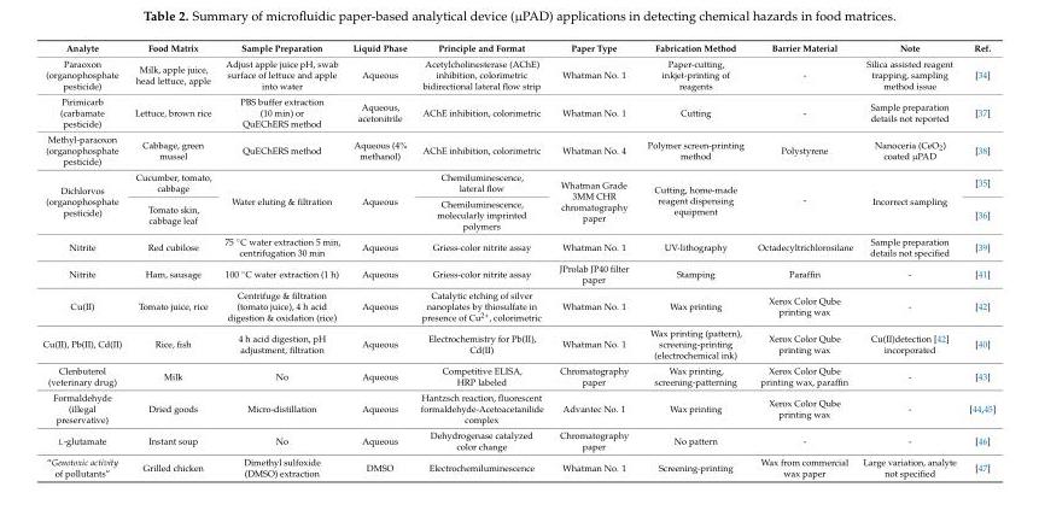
<table><thead><tr><td>Analyte</td><td>Food Matrix</td><td>Sample Preparation</td><td>Liquid Phase</td><td>Principle and Format</td><td>Paper Type</td><td>Fabrication Method</td><td>Barrier Material</td><td>Note</td><td>Ref.</td></tr></thead><tbody><tr><td>Paraoxon (organophosphate pesticide)</td><td>Milk, apple juice, head lettuce, apple</td><td>Adjust apple juice pH, swab surface of lettuce and apple into water</td><td>Aqueous</td><td>Acetylcholinesterase (AChE) inhibition, colorimetric bidirectional lateral flow strip</td><td>Whatman No. 1</td><td>Paper-cutting, inkjet-printing of reagents</td><td>-</td><td>Silica assisted reagent trapping, sampling method issue</td><td>[34]</td></tr><tr><td>Pirimicarb (carbamate pesticide)</td><td>Lettuce, brown rice</td><td>PBS buffer extraction (10 min) or QuEChERS method</td><td>Aqueous, acetonitrile</td><td>AChE inhibition, colorimetric</td><td>Whatman No. 1</td><td>Cutting</td><td>-</td><td>Sample preparation details not reported</td><td>[37]</td></tr><tr><td>Methyl-paraoxon (organophosphate pesticide)</td><td>Cabbage, green mussel</td><td>QuEChERS method</td><td>Aqueous (4% methanol)</td><td>AChE inhibition, colorimetric</td><td>Whatman No. 4</td><td>Polymer screen-printing method</td><td>Polystyrene</td><td>Nanoceria (CeO<sub>2</sub>) coated µPAD</td><td>[38]</td></tr><tr><td rowspan="2">Dichlorvos (organophosphate pesticide)</td><td>Cucumber, tomato, cabbage</td><td rowspan="2">Water eluting &amp; filtration</td><td rowspan="2">Aqueous</td><td>Chemiluminescence, lateral flow</td><td rowspan="2">Whatman Grade 3MM CHR chromatography paper</td><td rowspan="2">Cutting, home-made reagent dispensing equipment</td><td rowspan="2">-</td><td rowspan="2">Incorrect sampling</td><td>[35]</td></tr><tr><td>Tomato skin, cabbage leaf</td><td>Chemiluminescence, molecularly imprinted polymers</td><td>[36]</td></tr><tr><td>Nitrite</td><td>Red cubilose</td><td>75 ◦C water extraction 5 min, centrifugation 30 min</td><td>Aqueous</td><td>Griess-color nitrite assay</td><td>Whatman No. 1</td><td>UV-lithography</td><td>Octadecyltrichlorosilane</td><td>Sample preparation details not specified</td><td>[39]</td></tr><tr><td>Nitrite</td><td>Ham, sausage</td><td>100 ◦C water extraction (1 h)</td><td>Aqueous</td><td>Griess-color nitrite assay</td><td>JProlab JP40 filter paper</td><td>Stamping</td><td>Paraffin</td><td>-</td><td>[41]</td></tr><tr><td>Cu(II)</td><td>Tomato juice, rice</td><td>Centrifuge &amp; filtration (tomato juice), 4 h acid digestion &amp; oxidation (rice)</td><td>Aqueous</td><td>Catalytic etching of silver nanoplates by thiosulfate in presence of Cu<sup>2+</sup>, colorimetric</td><td>Whatman No. 1</td><td>Wax printing</td><td>Xerox Color Qube printing wax</td><td>-</td><td>[42]</td></tr><tr><td>Cu(II), Pb(II), Cd(II)</td><td>Rice, fish</td><td>4 h acid digestion, pH adjustment, filtration</td><td>Aqueous</td><td>Electrochemistry for Pb(II), Cd(II)</td><td>Whatman No. 1</td><td>Wax printing (pattern), screening-printing (electrochemical ink)</td><td>Xerox Color Qube printing wax</td><td>Cu(II)detection [42] incorporated</td><td>[40]</td></tr><tr><td>Clenbuterol (veterinary drug)</td><td>Milk</td><td>No</td><td>Aqueous</td><td>Competitive ELISA, HRP labeled</td><td>Chromatography paper</td><td>Wax printing, screening-patterning</td><td>Xerox Color Qube printing wax, paraffin</td><td>-</td><td>[43]</td></tr><tr><td>Formaldehyde (illegal preservative)</td><td>Dried goods</td><td>Micro-distillation</td><td>Aqueous</td><td>Hantzsch reaction, fluorescent formaldehyde-Acetoacetanilide complex</td><td>Advantec No. 1</td><td>Wax printing</td><td>Xerox Color Qube printing wax</td><td>-</td><td>[44,45]</td></tr><tr><td>L-glutamate</td><td>Instant soup</td><td>No</td><td>Aqueous</td><td>Dehydrogenase catalyzed color change</td><td>Chromatography paper</td><td>No pattern</td><td>-</td><td>-</td><td>[46]</td></tr><tr><td>“Genotoxic activity of pollutants”</td><td>Grilled chicken</td><td>Dimethyl sulfoxide (DMSO) extraction</td><td>DMSO</td><td>Electrochemiluminescence</td><td>Whatman No. 1</td><td>Screening-printing</td><td>Wax from commercial wax paper</td><td>Large variation, analyte not specified</td><td>[47]</td></tr></tbody></table>